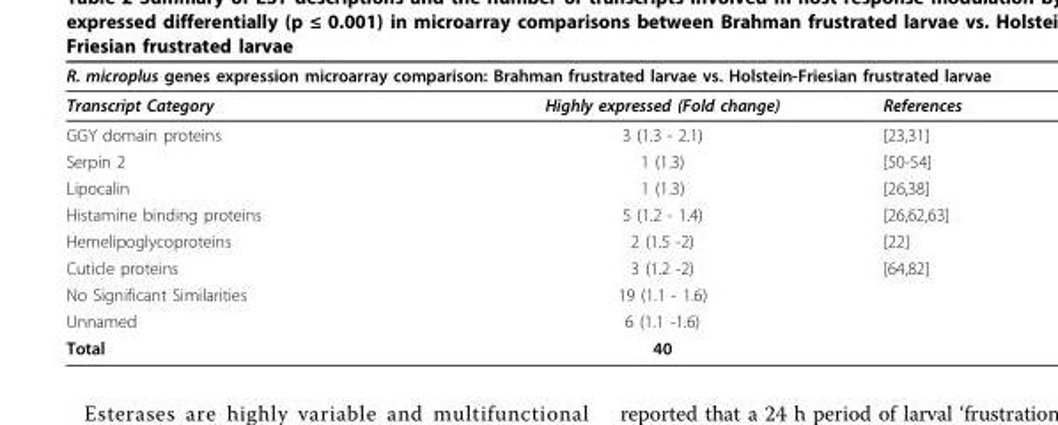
<table><thead><tr><td colspan="3">R. microplus genes expression microarray comparison: Brahman frustrated larvae vs. Holstein-Friesian frustrated larvae</td></tr><tr><td>Transcript Category</td><td>Highly expressed (Fold change)</td><td>References</td></tr></thead><tbody><tr><td>GGY domain proteins</td><td>3 (1.3 - 2.1)</td><td>[23,31]</td></tr><tr><td>Serpin 2</td><td>1 (1.3)</td><td>[50-54]</td></tr><tr><td>Lipocalin</td><td>1 (1.3)</td><td>[26,38]</td></tr><tr><td>Histamine binding proteins</td><td>5 (1.2 - 1.4)</td><td>[26,62,63]</td></tr><tr><td>Hemelipoglycoproteins</td><td>2 (1.5 -2)</td><td>[22]</td></tr><tr><td>Cuticle proteins</td><td>3 (1.2 -2)</td><td>[64,82]</td></tr><tr><td>No Significant Similarities</td><td>19 (1.1 - 1.6)</td><td></td></tr><tr><td>Unnamed</td><td>6 (1.1 -1.6)</td><td></td></tr><tr><td>Total</td><td>40</td><td></td></tr></tbody></table>